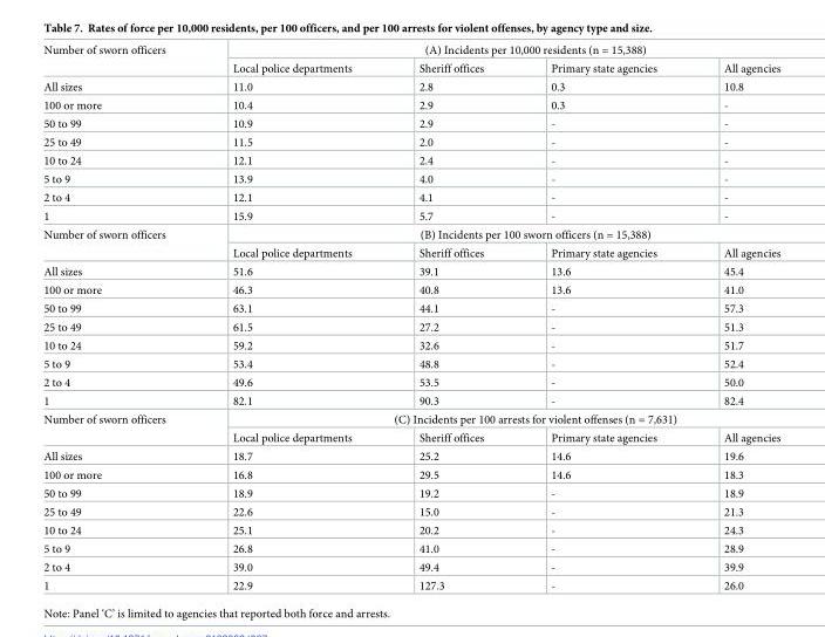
<table><tbody><tr><td rowspan="2">Number of sworn officers</td><td colspan="4">(A) Incidents per 10,000 residents (n = 15,388)</td></tr><tr><td>Local police departments</td><td>Sheriff offices</td><td>Primary state agencies</td><td>All agencies</td></tr><tr><td>All sizes</td><td>11.0</td><td>2.8</td><td>0.3</td><td>10.8</td></tr><tr><td>100 or more</td><td>10.4</td><td>2.9</td><td>0.3</td><td>-</td></tr><tr><td>50 to 99</td><td>10.9</td><td>2.9</td><td>-</td><td>-</td></tr><tr><td>25 to 49</td><td>11.5</td><td>2.0</td><td>-</td><td>-</td></tr><tr><td>10 to 24</td><td>12.1</td><td>2.4</td><td>-</td><td>-</td></tr><tr><td>5 to 9</td><td>13.9</td><td>4.0</td><td>-</td><td>-</td></tr><tr><td>2 to 4</td><td>12.1</td><td>4.1</td><td>-</td><td>-</td></tr><tr><td>1</td><td>15.9</td><td>5.7</td><td>-</td><td>-</td></tr><tr><td rowspan="2">Number of sworn officers</td><td colspan="4">(B) Incidents per 100 sworn officers (n = 15,388)</td></tr><tr><td>Local police departments</td><td>Sheriff offices</td><td>Primary state agencies</td><td>All agencies</td></tr><tr><td>All sizes</td><td>51.6</td><td>39.1</td><td>13.6</td><td>45.4</td></tr><tr><td>100 or more</td><td>46.3</td><td>40.8</td><td>13.6</td><td>41.0</td></tr><tr><td>50 to 99</td><td>63.1</td><td>44.1</td><td>-</td><td>57.3</td></tr><tr><td>25 to 49</td><td>61.5</td><td>27.2</td><td>-</td><td>51.3</td></tr><tr><td>10 to 24</td><td>59.2</td><td>32.6</td><td>-</td><td>51.7</td></tr><tr><td>5 to 9</td><td>53.4</td><td>48.8</td><td>-</td><td>52.4</td></tr><tr><td>2 to 4</td><td>49.6</td><td>53.5</td><td>-</td><td>50.0</td></tr><tr><td>1</td><td>82.1</td><td>90.3</td><td>-</td><td>82.4</td></tr><tr><td rowspan="2">Number of sworn officers</td><td colspan="4">(C) Incidents per 100 arrests for violent offenses (n = 7,631)</td></tr><tr><td>Local police departments</td><td>Sheriff offices</td><td>Primary state agencies</td><td>All agencies</td></tr><tr><td>All sizes</td><td>18.7</td><td>25.2</td><td>14.6</td><td>19.6</td></tr><tr><td>100 or more</td><td>16.8</td><td>29.5</td><td>14.6</td><td>18.3</td></tr><tr><td>50 to 99</td><td>18.9</td><td>19.2</td><td>-</td><td>18.9</td></tr><tr><td>25 to 49</td><td>22.6</td><td>15.0</td><td>-</td><td>21.3</td></tr><tr><td>10 to 24</td><td>25.1</td><td>20.2</td><td>-</td><td>24.3</td></tr><tr><td>5 to 9</td><td>26.8</td><td>41.0</td><td>-</td><td>28.9</td></tr><tr><td>2 to 4</td><td>39.0</td><td>49.4</td><td>-</td><td>39.9</td></tr><tr><td>1</td><td>22.9</td><td>127.3</td><td>-</td><td>26.0</td></tr></tbody></table>